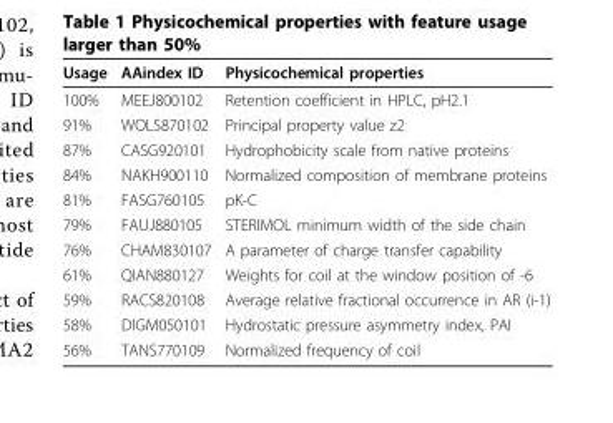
<table><thead><tr><td>Usage</td><td>AAindex ID</td><td>Physicochemical properties</td></tr></thead><tbody><tr><td>100%</td><td>MEEJ800102</td><td>Retention coefficient in HPLC, pH2.1</td></tr><tr><td>91%</td><td>WOLS870102</td><td>Principal property value z2</td></tr><tr><td>87%</td><td>CASG920101</td><td>Hydrophobicity scale from native proteins</td></tr><tr><td>84%</td><td>NAKH900110</td><td>Normalized composition of membrane proteins</td></tr><tr><td>81%</td><td>FASG760105</td><td>pK-C</td></tr><tr><td>79%</td><td>FAUJ880105</td><td>STERIMOL minimum width of the side chain</td></tr><tr><td>76%</td><td>CHAM830107</td><td>A parameter of charge transfer capability</td></tr><tr><td>61%</td><td>QIAN880127</td><td>Weights for coil at the window position of -6</td></tr><tr><td>59%</td><td>RACS820108</td><td>Average relative fractional occurrence in AR (i-1)</td></tr><tr><td>58%</td><td>DIGM050101</td><td>Hydrostatic pressure asymmetry index, PAI</td></tr><tr><td>56%</td><td>TANS770109</td><td>Normalized frequency of coil</td></tr></tbody></table>